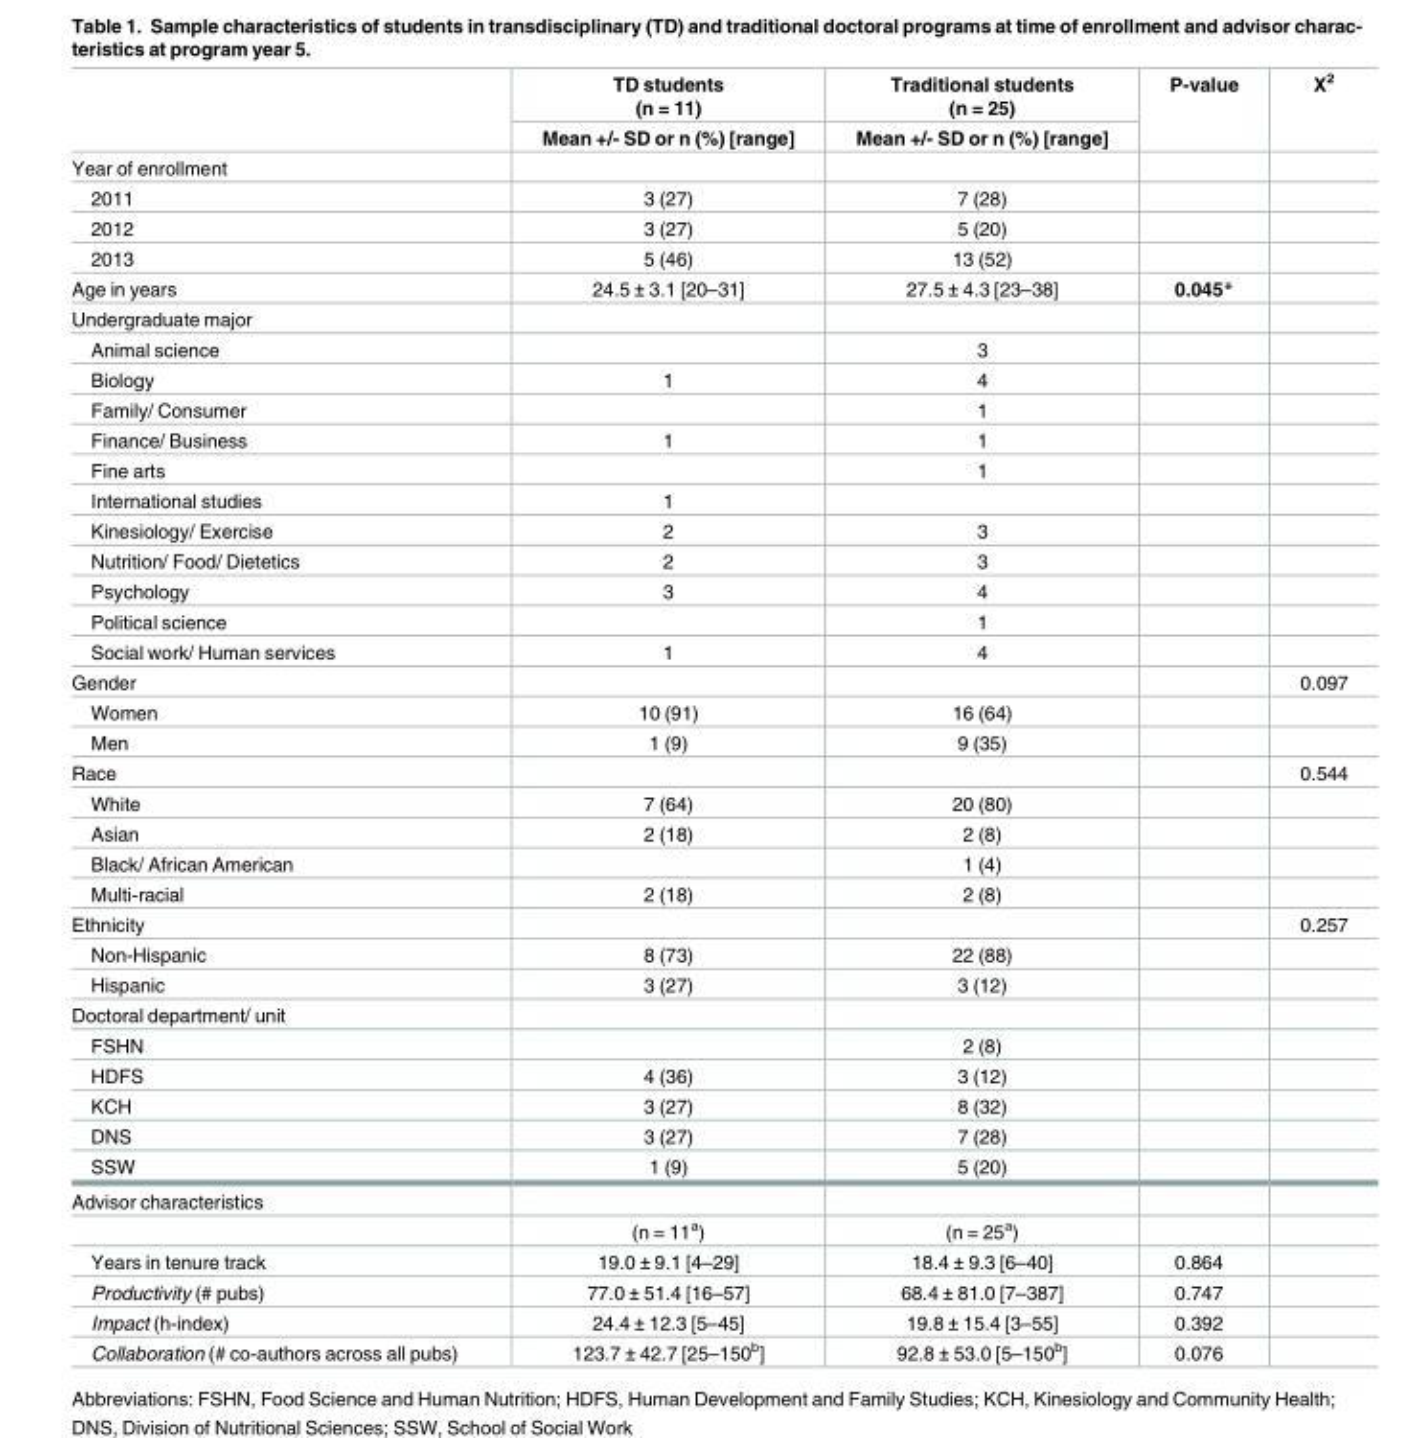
<table><thead><tr><td rowspan="2"></td><td rowspan="2">TD students (n = 11) Mean +/- SD or n (%) [range]</td><td rowspan="2">Traditional students (n = 25) Mean +/- SD or n (%) [range]</td><td rowspan="2">P-value</td><td rowspan="2">X<sup>2</sup></td></tr><tr></tr></thead><tbody><tr><td colspan="5">Year of enrollment</td></tr><tr><td>2011</td><td>3 (27)</td><td>7 (28)</td><td></td><td></td></tr><tr><td>2012</td><td>3 (27)</td><td>5 (20)</td><td></td><td></td></tr><tr><td>2013</td><td>5 (46)</td><td>13 (52)</td><td></td><td></td></tr><tr><td>Age in years</td><td>24.5 ± 3.1 [20–31]</td><td>27.5 ± 4.3 [23–38]</td><td>0.045*</td><td></td></tr><tr><td colspan="5">Undergraduate major</td></tr><tr><td>Animal science</td><td></td><td>3</td><td></td><td></td></tr><tr><td>Biology</td><td>1</td><td>4</td><td></td><td></td></tr><tr><td>Family/ Consumer</td><td></td><td>1</td><td></td><td></td></tr><tr><td>Finance/ Business</td><td>1</td><td>1</td><td></td><td></td></tr><tr><td>Fine arts</td><td></td><td>1</td><td></td><td></td></tr><tr><td>International studies</td><td>1</td><td></td><td></td><td></td></tr><tr><td>Kinesiology/ Exercise</td><td>2</td><td>3</td><td></td><td></td></tr><tr><td>Nutrition/ Food/ Dietetics</td><td>2</td><td>3</td><td></td><td></td></tr><tr><td>Psychology</td><td>3</td><td>4</td><td></td><td></td></tr><tr><td>Political science</td><td></td><td>1</td><td></td><td></td></tr><tr><td>Social work/ Human services</td><td>1</td><td>4</td><td></td><td></td></tr><tr><td>Gender</td><td></td><td></td><td></td><td>0.097</td></tr><tr><td>Women</td><td>10 (91)</td><td>16 (64)</td><td></td><td></td></tr><tr><td>Men</td><td>1 (9)</td><td>9 (35)</td><td></td><td></td></tr><tr><td>Race</td><td></td><td></td><td></td><td>0.544</td></tr><tr><td>White</td><td>7 (64)</td><td>20 (80)</td><td></td><td></td></tr><tr><td>Asian</td><td>2 (18)</td><td>2 (8)</td><td></td><td></td></tr><tr><td>Black/ African American</td><td></td><td>1 (4)</td><td></td><td></td></tr><tr><td>Multi-racial</td><td>2 (18)</td><td>2 (8)</td><td></td><td></td></tr><tr><td>Ethnicity</td><td></td><td></td><td></td><td>0.257</td></tr><tr><td>Non-Hispanic</td><td>8 (73)</td><td>22 (88)</td><td></td><td></td></tr><tr><td>Hispanic</td><td>3 (27)</td><td>3 (12)</td><td></td><td></td></tr><tr><td colspan="5">Doctoral department/ unit</td></tr><tr><td>FSHN</td><td></td><td>2 (8)</td><td></td><td></td></tr><tr><td>HDFS</td><td>4 (36)</td><td>3 (12)</td><td></td><td></td></tr><tr><td>KCH</td><td>3 (27)</td><td>8 (32)</td><td></td><td></td></tr><tr><td>DNS</td><td>3 (27)</td><td>7 (28)</td><td></td><td></td></tr><tr><td>SSW</td><td>1 (9)</td><td>5 (20)</td><td></td><td></td></tr><tr><td colspan="5">Advisor characteristics</td></tr><tr><td></td><td>(n = 11<sup>a</sup>)</td><td>(n = 25<sup>a</sup>)</td><td></td><td></td></tr><tr><td>Years in tenure track</td><td>19.0 ± 9.1 [4–29]</td><td>18.4 ± 9.3 [6–40]</td><td>0.864</td><td></td></tr><tr><td>Productivity (# pubs)</td><td>77.0 ± 51.4 [16–57]</td><td>68.4 ± 81.0 [7–387]</td><td>0.747</td><td></td></tr><tr><td>Impact (h-index)</td><td>24.4 ± 12.3 [5–45]</td><td>19.8 ± 15.4 [3–55]</td><td>0.392</td><td></td></tr><tr><td>Collaboration (# co-authors across all pubs)</td><td>123.7 ± 42.7 [25–150<sup>b</sup>]</td><td>92.8 ± 53.0 [5–150<sup>b</sup>]</td><td>0.076</td><td></td></tr></tbody></table>